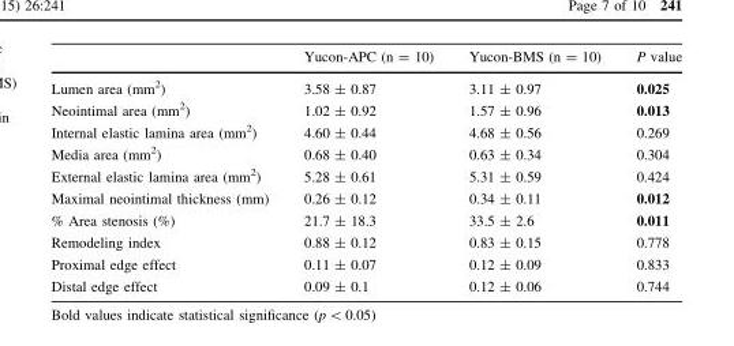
<table><thead><tr><td></td><td>Yucon-APC (n = 10)</td><td>Yucon-BMS (n = 10)</td><td>P value</td></tr></thead><tbody><tr><td>Lumen area (mm<sup>2</sup>)</td><td>3.58 ± 0.87</td><td>3.11 ± 0.97</td><td>0.025</td></tr><tr><td>Neointimal area (mm<sup>2</sup>)</td><td>1.02 ± 0.92</td><td>1.57 ± 0.96</td><td>0.013</td></tr><tr><td>Internal elastic lamina area (mm<sup>2</sup>)</td><td>4.60 ± 0.44</td><td>4.68 ± 0.56</td><td>0.269</td></tr><tr><td>Media area (mm<sup>2</sup>)</td><td>0.68 ± 0.40</td><td>0.63 ± 0.34</td><td>0.304</td></tr><tr><td>External elastic lamina area (mm<sup>2</sup>)</td><td>5.28 ± 0.61</td><td>5.31 ± 0.59</td><td>0.424</td></tr><tr><td>Maximal neointimal thickness (mm)</td><td>0.26 ± 0.12</td><td>0.34 ± 0.11</td><td>0.012</td></tr><tr><td>% Area stenosis (%)</td><td>21.7 ± 18.3</td><td>33.5 ± 2.6</td><td>0.011</td></tr><tr><td>Remodeling index</td><td>0.88 ± 0.12</td><td>0.83 ± 0.15</td><td>0.778</td></tr><tr><td>Proximal edge effect</td><td>0.11 ± 0.07</td><td>0.12 ± 0.09</td><td>0.833</td></tr><tr><td>Distal edge effect</td><td>0.09 ± 0.1</td><td>0.12 ± 0.06</td><td>0.744</td></tr></tbody></table>